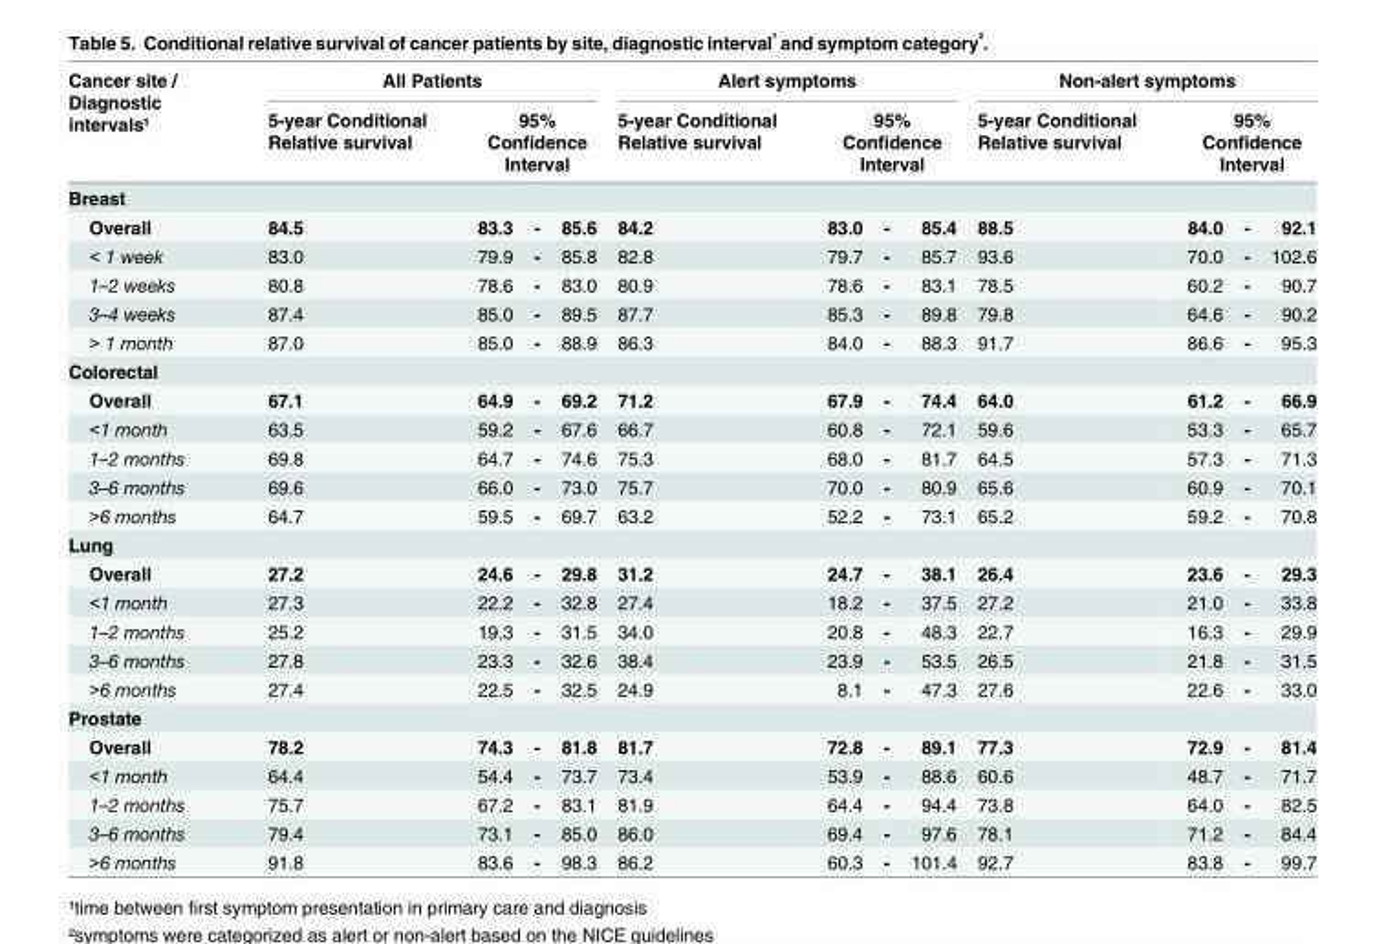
<table><thead><tr><td rowspan="2">Cancer site / Diagnostic intervals¹</td><td colspan="4">All Patients</td><td colspan="4">Alert symptoms</td><td colspan="4">Non-alert symptoms</td></tr><tr><td>5-year Conditional Relative survival</td><td colspan="3">95% Confidence Interval</td><td>5-year Conditional Relative survival</td><td colspan="3">95% Confidence Interval</td><td>5-year Conditional Relative survival</td><td colspan="3">95% Confidence Interval</td></tr><tr><td colspan="13">Breast</td></tr><tr><td>Overall</td><td>84.5</td><td>83.3</td><td>-</td><td>85.6</td><td>84.2</td><td>83.0</td><td>-</td><td>85.4</td><td>88.5</td><td>84.0</td><td>-</td><td>92.1</td></tr></thead><tbody><tr><td>&lt; 1 week</td><td>83.0</td><td>79.9</td><td>-</td><td>85.8</td><td>82.8</td><td>79.7</td><td>-</td><td>85.7</td><td>93.6</td><td>70.0</td><td>-</td><td>102.6</td></tr><tr><td>1–2 weeks</td><td>80.8</td><td>78.6</td><td>-</td><td>83.0</td><td>80.9</td><td>78.6</td><td>-</td><td>83.1</td><td>78.5</td><td>60.2</td><td>-</td><td>90.7</td></tr><tr><td>3–4 weeks</td><td>87.4</td><td>85.0</td><td>-</td><td>89.5</td><td>87.7</td><td>85.3</td><td>-</td><td>89.8</td><td>79.8</td><td>64.6</td><td>-</td><td>90.2</td></tr><tr><td>&gt; 1 month</td><td>87.0</td><td>85.0</td><td>-</td><td>88.9</td><td>86.3</td><td>84.0</td><td>-</td><td>88.3</td><td>91.7</td><td>86.6</td><td>-</td><td>95.3</td></tr><tr><td colspan="13">Colorectal</td></tr><tr><td>Overall</td><td>67.1</td><td>64.9</td><td>-</td><td>69.2</td><td>71.2</td><td>67.9</td><td>-</td><td>74.4</td><td>64.0</td><td>61.2</td><td>-</td><td>66.9</td></tr><tr><td>&lt;1 month</td><td>63.5</td><td>59.2</td><td>-</td><td>67.6</td><td>66.7</td><td>60.8</td><td>-</td><td>72.1</td><td>59.6</td><td>53.3</td><td>-</td><td>65.7</td></tr><tr><td>1–2 months</td><td>69.8</td><td>64.7</td><td>-</td><td>74.6</td><td>75.3</td><td>68.0</td><td>-</td><td>81.7</td><td>64.5</td><td>57.3</td><td>-</td><td>71.3</td></tr><tr><td>3–6 months</td><td>69.6</td><td>66.0</td><td>-</td><td>73.0</td><td>75.7</td><td>70.0</td><td>-</td><td>80.9</td><td>65.6</td><td>60.9</td><td>-</td><td>70.1</td></tr><tr><td>&gt;6 months</td><td>64.7</td><td>59.5</td><td>-</td><td>69.7</td><td>63.2</td><td>52.2</td><td>-</td><td>73.1</td><td>65.2</td><td>59.2</td><td>-</td><td>70.8</td></tr><tr><td colspan="13">Lung</td></tr><tr><td>Overall</td><td>27.2</td><td>24.6</td><td>-</td><td>29.8</td><td>31.2</td><td>24.7</td><td>-</td><td>38.1</td><td>26.4</td><td>23.6</td><td>-</td><td>29.3</td></tr><tr><td>&lt;1 month</td><td>27.3</td><td>22.2</td><td>-</td><td>32.8</td><td>27.4</td><td>18.2</td><td>-</td><td>37.5</td><td>27.2</td><td>21.0</td><td>-</td><td>33.8</td></tr><tr><td>1–2 months</td><td>25.2</td><td>19.3</td><td>-</td><td>31.5</td><td>34.0</td><td>20.8</td><td>-</td><td>48.3</td><td>22.7</td><td>16.3</td><td>-</td><td>29.9</td></tr><tr><td>3–6 months</td><td>27.8</td><td>23.3</td><td>-</td><td>32.6</td><td>38.4</td><td>23.9</td><td>-</td><td>53.5</td><td>26.5</td><td>21.8</td><td>-</td><td>31.5</td></tr><tr><td>&gt;6 months</td><td>27.4</td><td>22.5</td><td>-</td><td>32.5</td><td>24.9</td><td>8.1</td><td>-</td><td>47.3</td><td>27.6</td><td>22.6</td><td>-</td><td>33.0</td></tr><tr><td colspan="13">Prostate</td></tr><tr><td>Overall</td><td>78.2</td><td>74.3</td><td>-</td><td>81.8</td><td>81.7</td><td>72.8</td><td>-</td><td>89.1</td><td>77.3</td><td>72.9</td><td>-</td><td>81.4</td></tr><tr><td>&lt;1 month</td><td>64.4</td><td>54.4</td><td>-</td><td>73.7</td><td>73.4</td><td>53.9</td><td>-</td><td>88.6</td><td>60.6</td><td>48.7</td><td>-</td><td>71.7</td></tr><tr><td>1–2 months</td><td>75.7</td><td>67.2</td><td>-</td><td>83.1</td><td>81.9</td><td>64.4</td><td>-</td><td>94.4</td><td>73.8</td><td>64.0</td><td>-</td><td>82.5</td></tr><tr><td>3–6 months</td><td>79.4</td><td>73.1</td><td>-</td><td>85.0</td><td>86.0</td><td>69.4</td><td>-</td><td>97.6</td><td>78.1</td><td>71.2</td><td>-</td><td>84.4</td></tr><tr><td>&gt;6 months</td><td>91.8</td><td>83.6</td><td>-</td><td>98.3</td><td>86.2</td><td>60.3</td><td>-</td><td>101.4</td><td>92.7</td><td>83.8</td><td>-</td><td>99.7</td></tr></tbody></table>